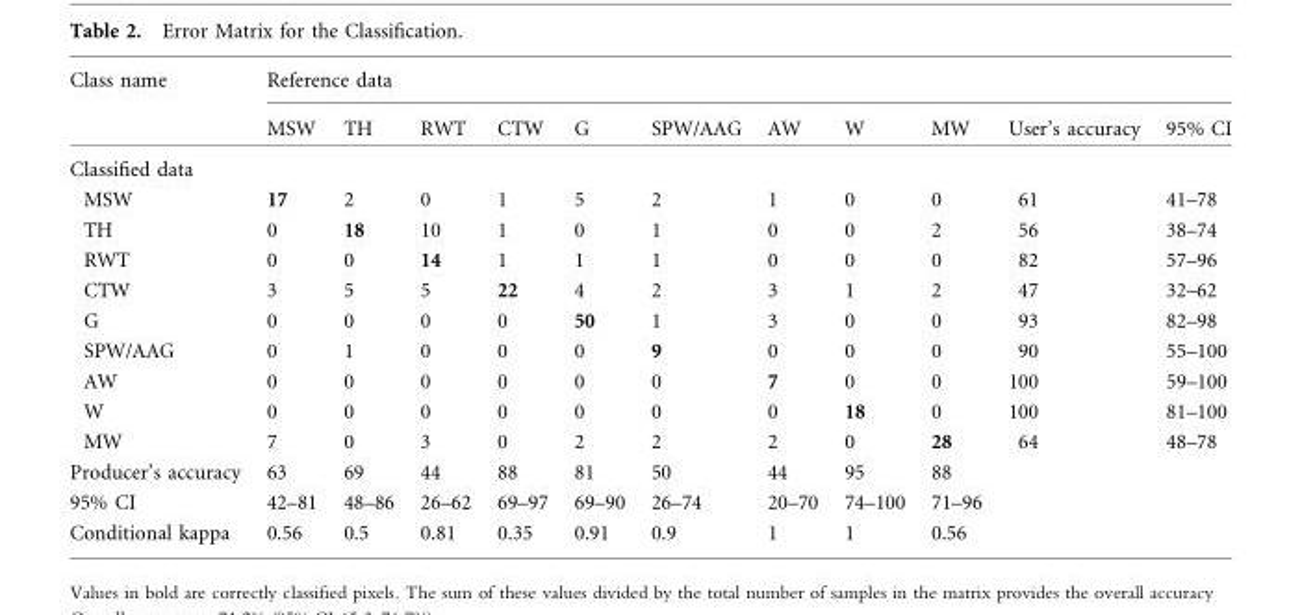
<table><thead><tr><td rowspan="2">Class name</td><td colspan="11">Reference data</td></tr><tr><td>MSW</td><td>TH</td><td>RWT</td><td>CTW</td><td>G</td><td>SPW/AAG</td><td>AW</td><td>W</td><td>MW</td><td>User’s accuracy</td><td>95% CI</td></tr></thead><tbody><tr><td colspan="12">Classified data</td></tr><tr><td>MSW</td><td>17</td><td>2</td><td>0</td><td>1</td><td>5</td><td>2</td><td>1</td><td>0</td><td>0</td><td>61</td><td>41–78</td></tr><tr><td>TH</td><td>0</td><td>18</td><td>10</td><td>1</td><td>0</td><td>1</td><td>0</td><td>0</td><td>2</td><td>56</td><td>38–74</td></tr><tr><td>RWT</td><td>0</td><td>0</td><td>14</td><td>1</td><td>1</td><td>1</td><td>0</td><td>0</td><td>0</td><td>82</td><td>57–96</td></tr><tr><td>CTW</td><td>3</td><td>5</td><td>5</td><td>22</td><td>4</td><td>2</td><td>3</td><td>1</td><td>2</td><td>47</td><td>32–62</td></tr><tr><td>G</td><td>0</td><td>0</td><td>0</td><td>0</td><td>50</td><td>1</td><td>3</td><td>0</td><td>0</td><td>93</td><td>82–98</td></tr><tr><td>SPW/AAG</td><td>0</td><td>1</td><td>0</td><td>0</td><td>0</td><td>9</td><td>0</td><td>0</td><td>0</td><td>90</td><td>55–100</td></tr><tr><td>AW</td><td>0</td><td>0</td><td>0</td><td>0</td><td>0</td><td>0</td><td>7</td><td>0</td><td>0</td><td>100</td><td>59–100</td></tr><tr><td>W</td><td>0</td><td>0</td><td>0</td><td>0</td><td>0</td><td>0</td><td>0</td><td>18</td><td>0</td><td>100</td><td>81–100</td></tr><tr><td>MW</td><td>7</td><td>0</td><td>3</td><td>0</td><td>2</td><td>2</td><td>2</td><td>0</td><td>28</td><td>64</td><td>48–78</td></tr><tr><td>Producer’s accuracy</td><td>63</td><td>69</td><td>44</td><td>88</td><td>81</td><td>50</td><td>44</td><td>95</td><td>88</td><td></td><td></td></tr><tr><td>95% CI</td><td>42–81</td><td>48–86</td><td>26–62</td><td>69–97</td><td>69–90</td><td>26–74</td><td>20–70</td><td>74–100</td><td>71–96</td><td></td><td></td></tr><tr><td>Conditional kappa</td><td>0.56</td><td>0.5</td><td>0.81</td><td>0.35</td><td>0.91</td><td>0.9</td><td>1</td><td>1</td><td>0.56</td><td></td><td></td></tr></tbody></table>